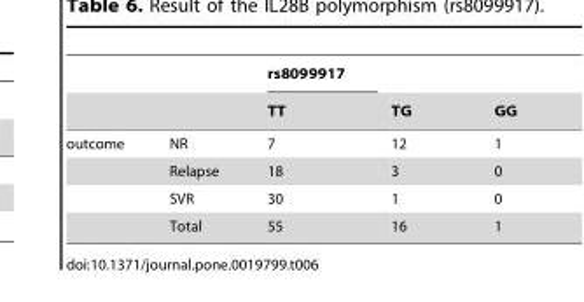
<table><thead><tr><td rowspan="2"></td><td rowspan="2"></td><td rowspan="2">rs8099917 TT</td><td rowspan="2">TG</td><td rowspan="2">GG</td></tr><tr></tr></thead><tbody><tr><td rowspan="4">outcome</td><td>NR</td><td>7</td><td>12</td><td>1</td></tr><tr><td>Relapse</td><td>18</td><td>3</td><td>0</td></tr><tr><td>SVR</td><td>30</td><td>1</td><td>0</td></tr><tr><td>Total</td><td>55</td><td>16</td><td>1</td></tr></tbody></table>